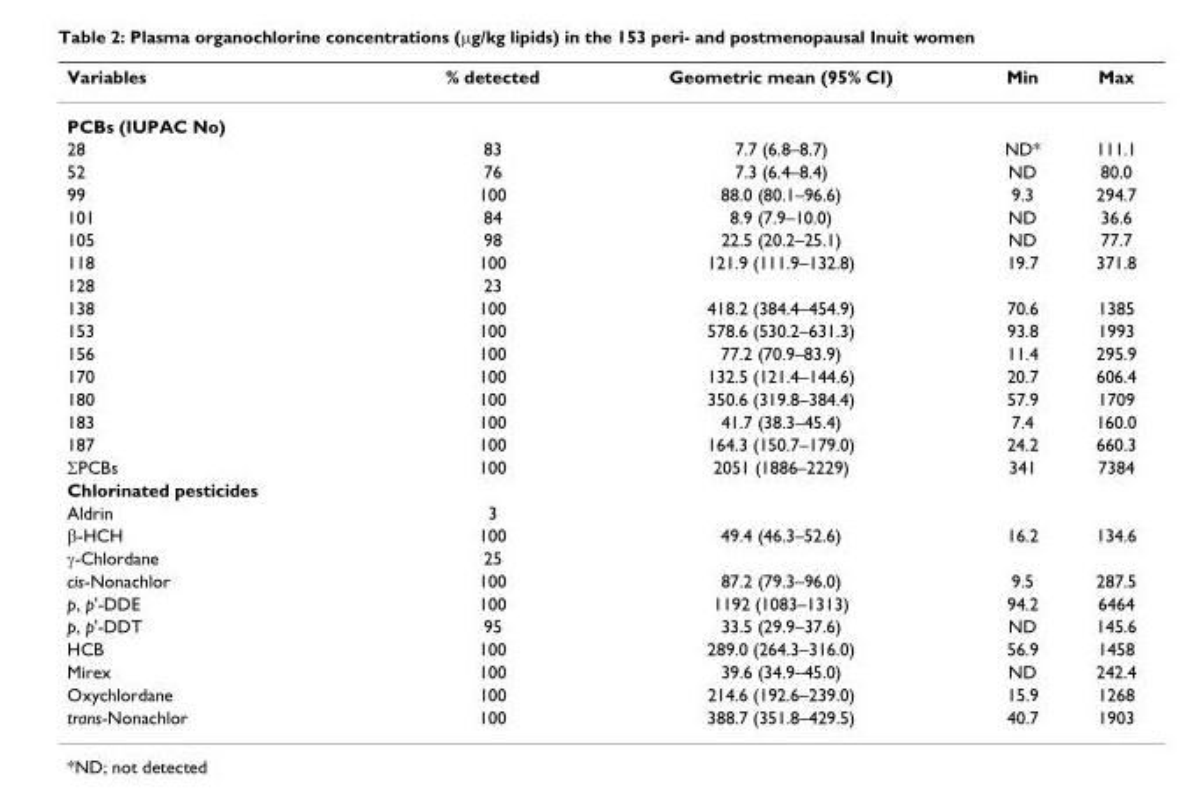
<table><thead><tr><td>Variables</td><td>% detected</td><td>Geometric mean (95% CI)</td><td>Min</td><td>Max</td></tr></thead><tbody><tr><td colspan="5">PCBs (IUPAC No)</td></tr><tr><td>28</td><td>83</td><td>7.7 (6.8–8.7)</td><td>ND*</td><td>111.1</td></tr><tr><td>52</td><td>76</td><td>7.3 (6.4–8.4)</td><td>ND</td><td>80.0</td></tr><tr><td>99</td><td>100</td><td>88.0 (80.1–96.6)</td><td>9.3</td><td>294.7</td></tr><tr><td>101</td><td>84</td><td>8.9 (7.9–10.0)</td><td>ND</td><td>36.6</td></tr><tr><td>105</td><td>98</td><td>22.5 (20.2–25.1)</td><td>ND</td><td>77.7</td></tr><tr><td>118</td><td>100</td><td>121.9 (111.9–132.8)</td><td>19.7</td><td>371.8</td></tr><tr><td>128</td><td>23</td><td></td><td></td><td></td></tr><tr><td>138</td><td>100</td><td>418.2 (384.4–454.9)</td><td>70.6</td><td>1385</td></tr><tr><td>153</td><td>100</td><td>578.6 (530.2–631.3)</td><td>93.8</td><td>1993</td></tr><tr><td>156</td><td>100</td><td>77.2 (70.9–83.9)</td><td>11.4</td><td>295.9</td></tr><tr><td>170</td><td>100</td><td>132.5 (121.4–144.6)</td><td>20.7</td><td>606.4</td></tr><tr><td>180</td><td>100</td><td>350.6 (319.8–384.4)</td><td>57.9</td><td>1709</td></tr><tr><td>183</td><td>100</td><td>41.7 (38.3–45.4)</td><td>7.4</td><td>160.0</td></tr><tr><td>187</td><td>100</td><td>164.3 (150.7–179.0)</td><td>24.2</td><td>660.3</td></tr><tr><td>ΣPCBs</td><td>100</td><td>2051 (1886–2229)</td><td>341</td><td>7384</td></tr><tr><td colspan="5">Chlorinated pesticides</td></tr><tr><td>Aldrin</td><td>3</td><td></td><td></td><td></td></tr><tr><td>β-HCH</td><td>100</td><td>49.4 (46.3–52.6)</td><td>16.2</td><td>134.6</td></tr><tr><td>γ-Chlordane</td><td>25</td><td></td><td></td><td></td></tr><tr><td>cis-Nonachlor</td><td>100</td><td>87.2 (79.3–96.0)</td><td>9.5</td><td>287.5</td></tr><tr><td>p, p&#x27;-DDE</td><td>100</td><td>1192 (1083–1313)</td><td>94.2</td><td>6464</td></tr><tr><td>p, p&#x27;-DDT</td><td>95</td><td>33.5 (29.9–37.6)</td><td>ND</td><td>145.6</td></tr><tr><td>HCB</td><td>100</td><td>289.0 (264.3–316.0)</td><td>56.9</td><td>1458</td></tr><tr><td>Mirex</td><td>100</td><td>39.6 (34.9–45.0)</td><td>ND</td><td>242.4</td></tr><tr><td>Oxychlordane</td><td>100</td><td>214.6 (192.6–239.0)</td><td>15.9</td><td>1268</td></tr><tr><td>trans-Nonachlor</td><td>100</td><td>388.7 (351.8–429.5)</td><td>40.7</td><td>1903</td></tr></tbody></table>